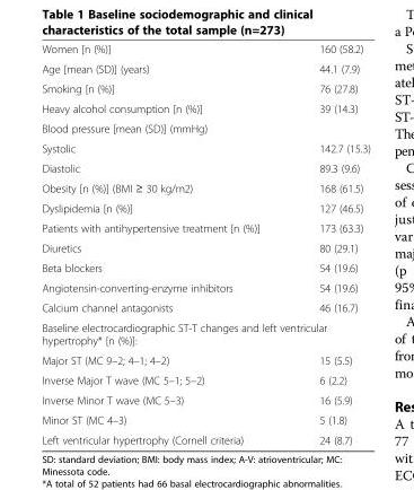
<table><tbody><tr><td>Women [n (%)]</td><td>160 (58.2)</td></tr><tr><td>Age [mean (SD)] (years)</td><td>44.1 (7.9)</td></tr><tr><td>Smoking [n (%)]</td><td>76 (27.8)</td></tr><tr><td>Heavy alcohol consumption [n (%)]</td><td>39 (14.3)</td></tr><tr><td colspan="2">Blood pressure [mean (SD)] (mmHg)</td></tr><tr><td>Systolic</td><td>142.7 (15.3)</td></tr><tr><td>Diastolic</td><td>89.3 (9.6)</td></tr><tr><td>Obesity [n (%)] (BMI ≥ 30 kg/m2)</td><td>168 (61.5)</td></tr><tr><td>Dyslipidemia [n (%)]</td><td>127 (46.5)</td></tr><tr><td>Patients with antihypertensive treatment [n (%)]</td><td>173 (63.3)</td></tr><tr><td>Diuretics</td><td>80 (29.1)</td></tr><tr><td>Beta blockers</td><td>54 (19.6)</td></tr><tr><td>Angiotensin-converting-enzyme inhibitors</td><td>54 (19.6)</td></tr><tr><td>Calcium channel antagonists</td><td>46 (16.7)</td></tr><tr><td colspan="2">Baseline electrocardiographic ST-T changes and left ventricular hypertrophy* [n (%)]:</td></tr><tr><td>Major ST (MC 9–2; 4–1; 4–2)</td><td>15 (5.5)</td></tr><tr><td>Inverse Major T wave (MC 5–1; 5–2)</td><td>6 (2.2)</td></tr><tr><td>Inverse Minor T wave (MC 5–3)</td><td>16 (5.9)</td></tr><tr><td>Minor ST (MC 4–3)</td><td>5 (1.8)</td></tr><tr><td>Left ventricular hypertrophy (Cornell criteria)</td><td>24 (8.7)</td></tr></tbody></table>